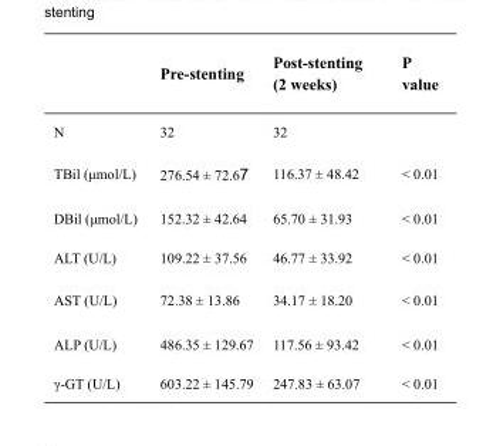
<table><thead><tr><td></td><td>Pre-stenting</td><td>Post-stenting (2 weeks)</td><td>P value</td></tr></thead><tbody><tr><td>N</td><td>32</td><td>32</td><td></td></tr><tr><td>TBil (μmol/L)</td><td>276.54 ± 72.67</td><td>116.37 ± 48.42</td><td>&lt; 0.01</td></tr><tr><td>DBil (μmol/L)</td><td>152.32 ± 42.64</td><td>65.70 ± 31.93</td><td>&lt; 0.01</td></tr><tr><td>ALT (U/L)</td><td>109.22 ± 37.56</td><td>46.77 ± 33.92</td><td>&lt; 0.01</td></tr><tr><td>AST (U/L)</td><td>72.38 ± 13.86</td><td>34.17 ± 18.20</td><td>&lt; 0.01</td></tr><tr><td>ALP (U/L)</td><td>486.35 ± 129.67</td><td>117.56 ± 93.42</td><td>&lt; 0.01</td></tr><tr><td>γ-GT (U/L)</td><td>603.22 ± 145.79</td><td>247.83 ± 63.07</td><td>&lt; 0.01</td></tr></tbody></table>